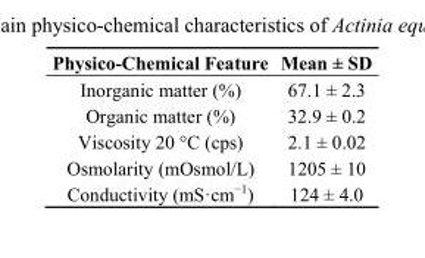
<table><thead><tr><td>Physico-Chemical Feature</td><td>Mean ± SD</td></tr></thead><tbody><tr><td>Inorganic matter (%)</td><td>67.1 ± 2.3</td></tr><tr><td>Organic matter (%)</td><td>32.9 ± 0.2</td></tr><tr><td>Viscosity 20 °C (cps)</td><td>2.1 ± 0.02</td></tr><tr><td>Osmolarity (mOsmol/L)</td><td>1205 ± 10</td></tr><tr><td>Conductivity (mS·cm<sup>−1</sup>)</td><td>124 ± 4.0</td></tr></tbody></table>